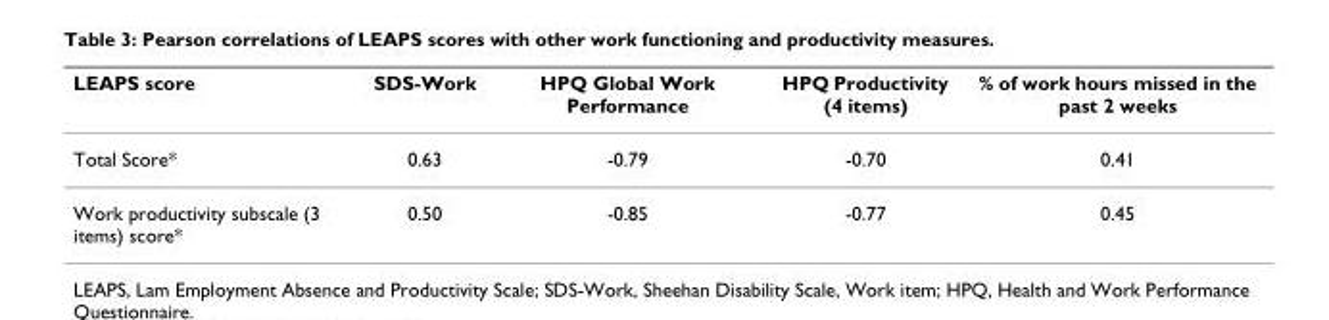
<table><thead><tr><td>LEAPS score</td><td>SDS-Work</td><td>HPQ Global Work Performance</td><td>HPQ Productivity (4 items)</td><td>% of work hours missed in the past 2 weeks</td></tr></thead><tbody><tr><td>Total Score*</td><td>0.63</td><td>-0.79</td><td>-0.70</td><td>0.41</td></tr><tr><td>Work productivity subscale (3 items) score*</td><td>0.50</td><td>-0.85</td><td>-0.77</td><td>0.45</td></tr></tbody></table>